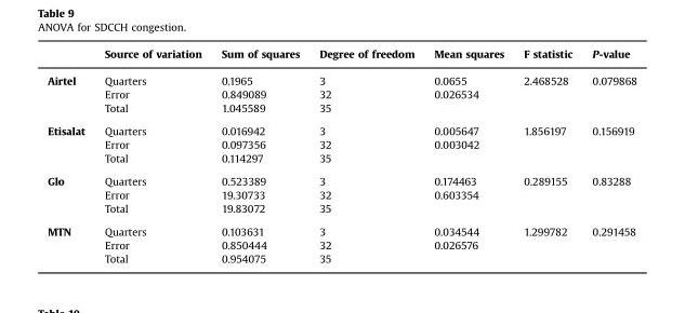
<table><thead><tr><td></td><td>Source of variation</td><td>Sum of squares</td><td>Degree of freedom</td><td>Mean squares</td><td>F statistic</td><td>P-value</td></tr></thead><tbody><tr><td rowspan="3">Airtel</td><td>Quarters</td><td>0.1965</td><td>3</td><td>0.0655</td><td>2.468528</td><td>0.079868</td></tr><tr><td>Error</td><td>0.849089</td><td>32</td><td>0.026534</td><td></td><td></td></tr><tr><td>Total</td><td>1.045589</td><td>35</td><td></td><td></td><td></td></tr><tr><td rowspan="3">Etisalat</td><td>Quarters</td><td>0.016942</td><td>3</td><td>0.005647</td><td>1.856197</td><td>0.156919</td></tr><tr><td>Error</td><td>0.097356</td><td>32</td><td>0.003042</td><td></td><td></td></tr><tr><td>Total</td><td>0.114297</td><td>35</td><td></td><td></td><td></td></tr><tr><td rowspan="3">Glo</td><td>Quarters</td><td>0.523389</td><td>3</td><td>0.174463</td><td>0.289155</td><td>0.83288</td></tr><tr><td>Error</td><td>19.30733</td><td>32</td><td>0.603354</td><td></td><td></td></tr><tr><td>Total</td><td>19.83072</td><td>35</td><td></td><td></td><td></td></tr><tr><td rowspan="3">MTN</td><td>Quarters</td><td>0.103631</td><td>3</td><td>0.034544</td><td>1.299782</td><td>0.291458</td></tr><tr><td>Error</td><td>0.850444</td><td>32</td><td>0.026576</td><td></td><td></td></tr><tr><td>Total</td><td>0.954075</td><td>35</td><td></td><td></td><td></td></tr></tbody></table>